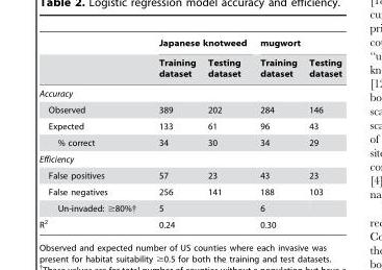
<table><thead><tr><td rowspan="2"></td><td colspan="2">Japanese knotweed</td><td colspan="2">mugwort</td></tr><tr><td>Training dataset</td><td>Testing dataset</td><td>Training dataset</td><td>Testing dataset</td></tr></thead><tbody><tr><td colspan="5">Accuracy</td></tr><tr><td>Observed</td><td>389</td><td>202</td><td>284</td><td>146</td></tr><tr><td>Expected</td><td>133</td><td>61</td><td>96</td><td>43</td></tr><tr><td>% correct</td><td>34</td><td>30</td><td>34</td><td>29</td></tr><tr><td colspan="5">Efficiency</td></tr><tr><td>False positives</td><td>57</td><td>23</td><td>43</td><td>23</td></tr><tr><td>False negatives</td><td>256</td><td>141</td><td>188</td><td>103</td></tr><tr><td>Un-invaded: ≥80%†</td><td>5</td><td></td><td>6</td><td></td></tr><tr><td>R<sup>2</sup></td><td>0.24</td><td></td><td>0.30</td><td></td></tr></tbody></table>